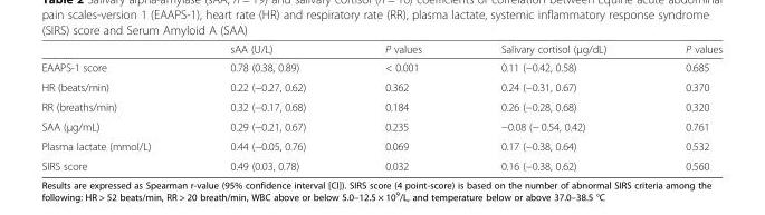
<table><thead><tr><td></td><td>sAA (U/L)</td><td>P values</td><td>Salivary cortisol (μg/dL)</td><td>P values</td></tr></thead><tbody><tr><td>EAAPS-1 score</td><td>0.78 (0.38, 0.89)</td><td>&lt; 0.001</td><td>0.11 (−0.42, 0.58)</td><td>0.685</td></tr><tr><td>HR (beats/min)</td><td>0.22 (−0.27, 0.62)</td><td>0.362</td><td>0.24 (−0.31, 0.67)</td><td>0.370</td></tr><tr><td>RR (breaths/min)</td><td>0.32 (−0.17, 0.68)</td><td>0.184</td><td>0.26 (−0.28, 0.68)</td><td>0.320</td></tr><tr><td>SAA (μg/mL)</td><td>0.29 (−0.21, 0.67)</td><td>0.235</td><td>−0.08 (− 0.54, 0.42)</td><td>0.761</td></tr><tr><td>Plasma lactate (mmol/L)</td><td>0.44 (−0.05, 0.76)</td><td>0.069</td><td>0.17 (−0.38, 0.64)</td><td>0.532</td></tr><tr><td>SIRS score</td><td>0.49 (0.03, 0.78)</td><td>0.032</td><td>0.16 (−0.38, 0.62)</td><td>0.560</td></tr></tbody></table>